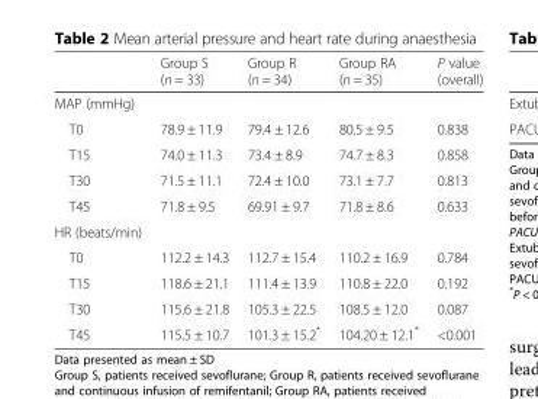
<table><thead><tr><td></td><td>Group S (n = 33)</td><td>Group R (n = 34)</td><td>Group RA (n = 35)</td><td>P value (overall)</td></tr></thead><tbody><tr><td colspan="5">MAP (mmHg)</td></tr><tr><td>T0</td><td>78.9 ± 11.9</td><td>79.4 ± 12.6</td><td>80.5 ± 9.5</td><td>0.838</td></tr><tr><td>T15</td><td>74.0 ± 11.3</td><td>73.4 ± 8.9</td><td>74.7 ± 8.3</td><td>0.858</td></tr><tr><td>T30</td><td>71.5 ± 11.1</td><td>72.4 ± 10.0</td><td>73.1 ± 7.7</td><td>0.813</td></tr><tr><td>T45</td><td>71.8 ± 9.5</td><td>69.91 ± 9.7</td><td>71.8 ± 8.6</td><td>0.633</td></tr><tr><td colspan="5">HR (beats/min)</td></tr><tr><td>T0</td><td>112.2 ± 14.3</td><td>112.7 ± 15.4</td><td>110.2 ± 16.9</td><td>0.784</td></tr><tr><td>T15</td><td>118.6 ± 21.1</td><td>111.4 ± 13.9</td><td>110.8 ± 22.0</td><td>0.192</td></tr><tr><td>T30</td><td>115.6 ± 21.8</td><td>105.3 ± 22.5</td><td>108.5 ± 12.0</td><td>0.087</td></tr><tr><td>T45</td><td>115.5 ± 10.7</td><td>101.3 ± 15.2*</td><td>104.20 ± 12.1*</td><td>&lt;0.001</td></tr></tbody></table>